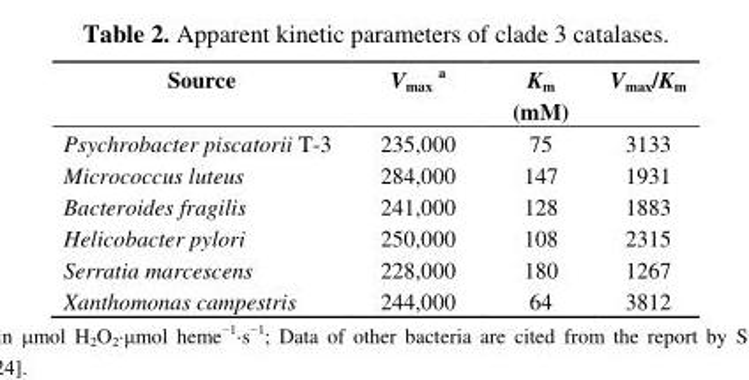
<table><thead><tr><td>Source</td><td>V<sub>max</sub> <sup>a</sup></td><td>K<sub>m</sub> (mM)</td><td>V<sub>max</sub>/K<sub>m</sub></td></tr></thead><tbody><tr><td>Psychrobacter piscatorii T-3</td><td>235,000</td><td>75</td><td>3133</td></tr><tr><td>Micrococcus luteus</td><td>284,000</td><td>147</td><td>1931</td></tr><tr><td>Bacteroides fragilis</td><td>241,000</td><td>128</td><td>1883</td></tr><tr><td>Helicobacter pylori</td><td>250,000</td><td>108</td><td>2315</td></tr><tr><td>Serratia marcescens</td><td>228,000</td><td>180</td><td>1267</td></tr><tr><td>Xanthomonas campestris</td><td>244,000</td><td>64</td><td>3812</td></tr></tbody></table>